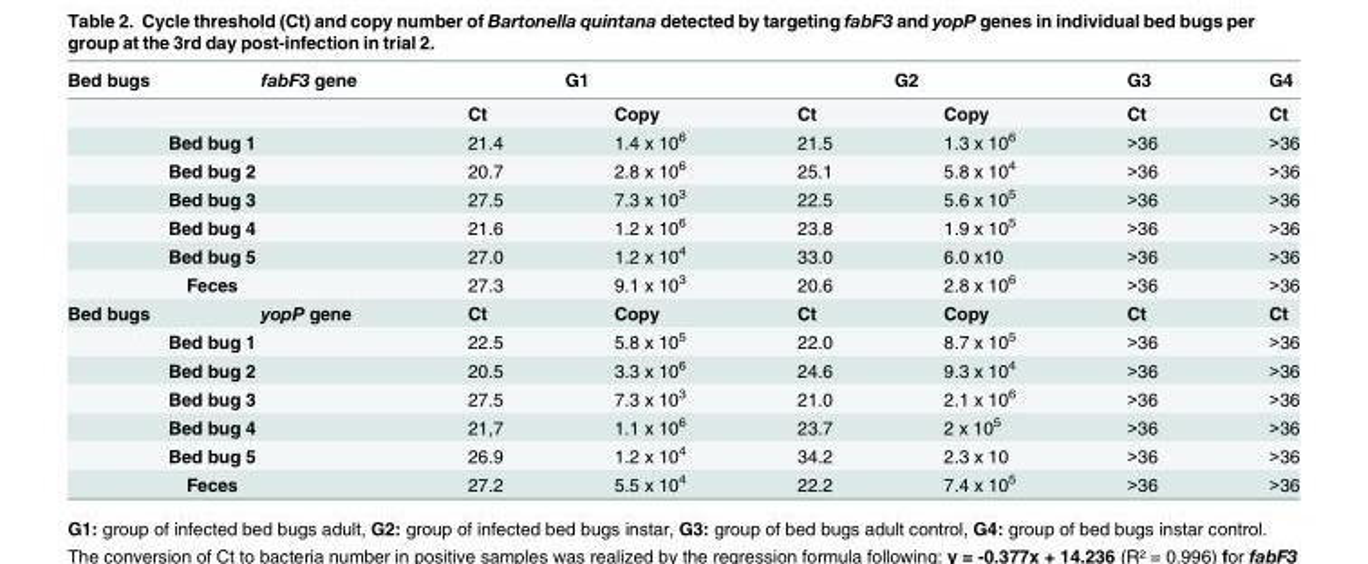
<table><thead><tr><td rowspan="2">Bed bugs</td><td rowspan="2">fabF3 gene</td><td colspan="2">G1</td><td colspan="2">G2</td><td rowspan="2">G3 Ct</td><td rowspan="2">G4 Ct</td></tr><tr><td>Ct</td><td>Copy</td><td>Ct</td><td>Copy</td></tr></thead><tbody><tr><td colspan="2">Bed bug 1</td><td>21.4</td><td>1.4 x 10<sup>6</sup></td><td>21.5</td><td>1.3 x 10<sup>6</sup></td><td>&gt;36</td><td>&gt;36</td></tr><tr><td colspan="2">Bed bug 2</td><td>20.7</td><td>2.8 x 10<sup>6</sup></td><td>25.1</td><td>5.8 x 10<sup>4</sup></td><td>&gt;36</td><td>&gt;36</td></tr><tr><td colspan="2">Bed bug 3</td><td>27.5</td><td>7.3 x 10<sup>3</sup></td><td>22.5</td><td>5.6 x 10<sup>5</sup></td><td>&gt;36</td><td>&gt;36</td></tr><tr><td colspan="2">Bed bug 4</td><td>21.6</td><td>1.2 x 10<sup>6</sup></td><td>23.8</td><td>1.9 x 10<sup>5</sup></td><td>&gt;36</td><td>&gt;36</td></tr><tr><td colspan="2">Bed bug 5</td><td>27.0</td><td>1.2 x 10<sup>4</sup></td><td>33.0</td><td>6.0 x10</td><td>&gt;36</td><td>&gt;36</td></tr><tr><td colspan="2">Feces</td><td>27.3</td><td>9.1 x 10<sup>3</sup></td><td>20.6</td><td>2.8 x 10<sup>6</sup></td><td>&gt;36</td><td>&gt;36</td></tr><tr><td>Bed bugs</td><td>yopP gene</td><td>Ct</td><td>Copy</td><td>Ct</td><td>Copy</td><td>Ct</td><td>Ct</td></tr><tr><td colspan="2">Bed bug 1</td><td>22.5</td><td>5.8 x 10<sup>5</sup></td><td>22.0</td><td>8.7 x 10<sup>5</sup></td><td>&gt;36</td><td>&gt;36</td></tr><tr><td colspan="2">Bed bug 2</td><td>20.5</td><td>3.3 x 10<sup>6</sup></td><td>24.6</td><td>9.3 x 10<sup>4</sup></td><td>&gt;36</td><td>&gt;36</td></tr><tr><td colspan="2">Bed bug 3</td><td>27.5</td><td>7.3 x 10<sup>3</sup></td><td>21.0</td><td>2.1 x 10<sup>6</sup></td><td>&gt;36</td><td>&gt;36</td></tr><tr><td colspan="2">Bed bug 4</td><td>21,7</td><td>1.1 x 10<sup>6</sup></td><td>23.7</td><td>2 x 10<sup>5</sup></td><td>&gt;36</td><td>&gt;36</td></tr><tr><td colspan="2">Bed bug 5</td><td>26.9</td><td>1.2 x 10<sup>4</sup></td><td>34.2</td><td>2.3 x 10</td><td>&gt;36</td><td>&gt;36</td></tr><tr><td colspan="2">Feces</td><td>27.2</td><td>5.5 x 10<sup>4</sup></td><td>22.2</td><td>7.4 x 10<sup>5</sup></td><td>&gt;36</td><td>&gt;36</td></tr></tbody></table>